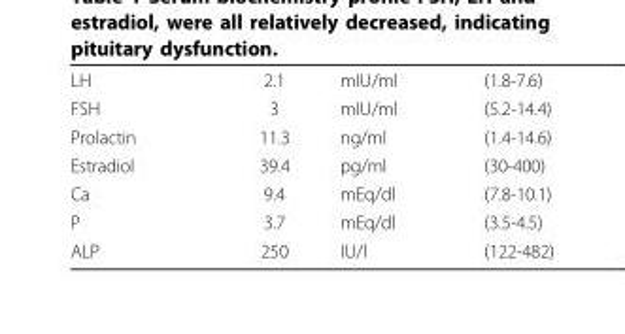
<table><tbody><tr><td>LH</td><td>2.1</td><td>mIU/ml</td><td>(1.8-7.6)</td></tr><tr><td>FSH</td><td>3</td><td>mIU/ml</td><td>(5.2-14.4)</td></tr><tr><td>Prolactin</td><td>11.3</td><td>ng/ml</td><td>(1.4-14.6)</td></tr><tr><td>Estradiol</td><td>39.4</td><td>pg/ml</td><td>(30-400)</td></tr><tr><td>Ca</td><td>9.4</td><td>mEq/dl</td><td>(7.8-10.1)</td></tr><tr><td>P</td><td>3.7</td><td>mEq/dl</td><td>(3.5-4.5)</td></tr><tr><td>ALP</td><td>250</td><td>IU/l</td><td>(122-482)</td></tr></tbody></table>